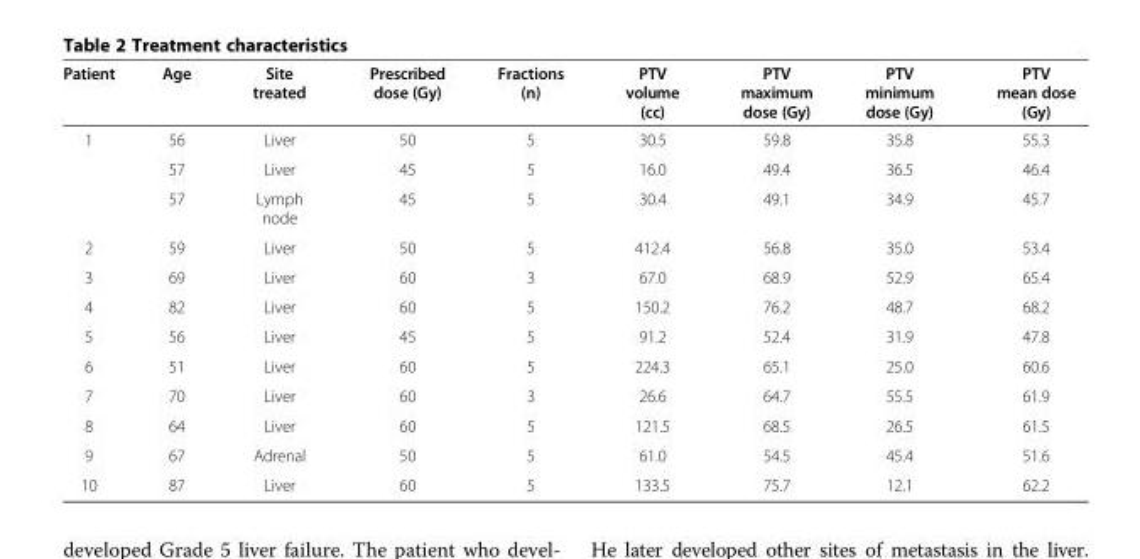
<table><thead><tr><td>Patient</td><td>Age</td><td>Site treated</td><td>Prescribed dose (Gy)</td><td>Fractions (n)</td><td>PTV volume (cc)</td><td>PTV maximum dose (Gy)</td><td>PTV minimum dose (Gy)</td><td>PTV mean dose (Gy)</td></tr></thead><tbody><tr><td rowspan="3">1</td><td>56</td><td>Liver</td><td>50</td><td>5</td><td>30.5</td><td>59.8</td><td>35.8</td><td>55.3</td></tr><tr><td>57</td><td>Liver</td><td>45</td><td>5</td><td>16.0</td><td>49.4</td><td>36.5</td><td>46.4</td></tr><tr><td>57</td><td>Lymph node</td><td>45</td><td>5</td><td>30.4</td><td>49.1</td><td>34.9</td><td>45.7</td></tr><tr><td>2</td><td>59</td><td>Liver</td><td>50</td><td>5</td><td>412.4</td><td>56.8</td><td>35.0</td><td>53.4</td></tr><tr><td>3</td><td>69</td><td>Liver</td><td>60</td><td>3</td><td>67.0</td><td>68.9</td><td>52.9</td><td>65.4</td></tr><tr><td>4</td><td>82</td><td>Liver</td><td>60</td><td>5</td><td>150.2</td><td>76.2</td><td>48.7</td><td>68.2</td></tr><tr><td>5</td><td>56</td><td>Liver</td><td>45</td><td>5</td><td>91.2</td><td>52.4</td><td>31.9</td><td>47.8</td></tr><tr><td>6</td><td>51</td><td>Liver</td><td>60</td><td>5</td><td>224.3</td><td>65.1</td><td>25.0</td><td>60.6</td></tr><tr><td>7</td><td>70</td><td>Liver</td><td>60</td><td>3</td><td>26.6</td><td>64.7</td><td>55.5</td><td>61.9</td></tr><tr><td>8</td><td>64</td><td>Liver</td><td>60</td><td>5</td><td>121.5</td><td>68.5</td><td>26.5</td><td>61.5</td></tr><tr><td>9</td><td>67</td><td>Adrenal</td><td>50</td><td>5</td><td>61.0</td><td>54.5</td><td>45.4</td><td>51.6</td></tr><tr><td>10</td><td>87</td><td>Liver</td><td>60</td><td>5</td><td>133.5</td><td>75.7</td><td>12.1</td><td>62.2</td></tr></tbody></table>